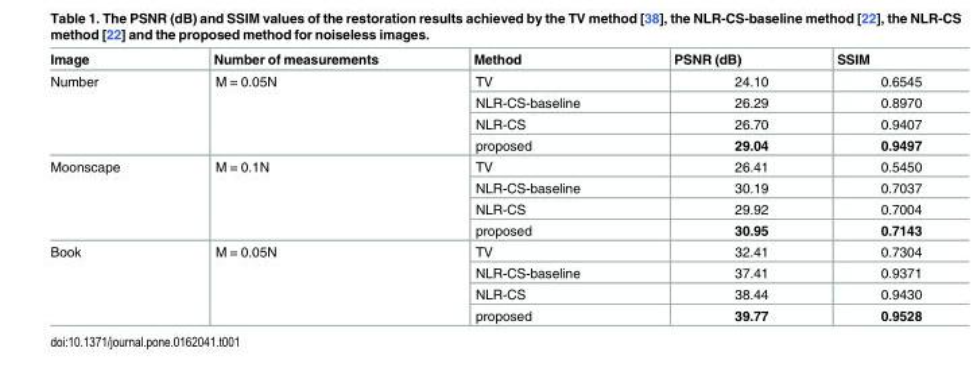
<table><thead><tr><td>Image</td><td>Number of measurements</td><td>Method</td><td>PSNR (dB)</td><td>SSIM</td></tr></thead><tbody><tr><td rowspan="4">Number</td><td rowspan="4">M = 0.05N</td><td>TV</td><td>24.10</td><td>0.6545</td></tr><tr><td>NLR-CS-baseline</td><td>26.29</td><td>0.8970</td></tr><tr><td>NLR-CS</td><td>26.70</td><td>0.9407</td></tr><tr><td>proposed</td><td>29.04</td><td>0.9497</td></tr><tr><td rowspan="4">Moonscape</td><td rowspan="4">M = 0.1N</td><td>TV</td><td>26.41</td><td>0.5450</td></tr><tr><td>NLR-CS-baseline</td><td>30.19</td><td>0.7037</td></tr><tr><td>NLR-CS</td><td>29.92</td><td>0.7004</td></tr><tr><td>proposed</td><td>30.95</td><td>0.7143</td></tr><tr><td rowspan="4">Book</td><td rowspan="4">M = 0.05N</td><td>TV</td><td>32.41</td><td>0.7304</td></tr><tr><td>NLR-CS-baseline</td><td>37.41</td><td>0.9371</td></tr><tr><td>NLR-CS</td><td>38.44</td><td>0.9430</td></tr><tr><td>proposed</td><td>39.77</td><td>0.9528</td></tr></tbody></table>